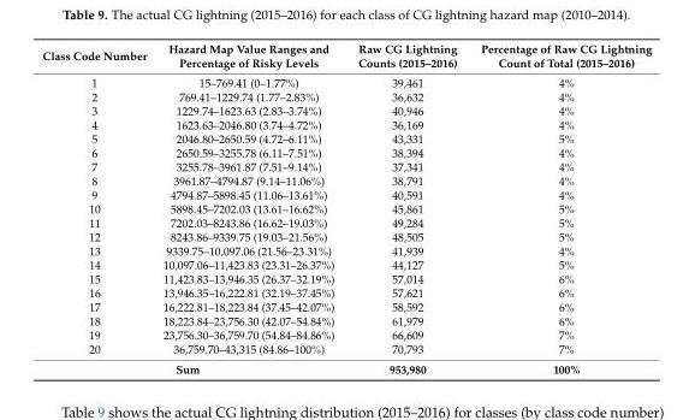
<table><thead><tr><td>Class Code Number</td><td>Hazard Map Value Ranges and Percentage of Risky Levels</td><td>Raw CG Lightning Counts (2015–2016)</td><td>Percentage of Raw CG Lightning Count of Total (2015–2016)</td></tr></thead><tbody><tr><td>1</td><td>15–769.41 (0–1.77%)</td><td>39,461</td><td>4%</td></tr><tr><td>2</td><td>769.41–1229.74 (1.77–2.83%)</td><td>36,632</td><td>4%</td></tr><tr><td>3</td><td>1229.74–1623.63 (2.83–3.74%)</td><td>40,946</td><td>4%</td></tr><tr><td>4</td><td>1623.63–2046.80 (3.74–4.72%)</td><td>36,169</td><td>4%</td></tr><tr><td>5</td><td>2046.80–2650.59 (4.72–6.11%)</td><td>43,331</td><td>5%</td></tr><tr><td>6</td><td>2650.59–3255.78 (6.11–7.51%)</td><td>38,394</td><td>4%</td></tr><tr><td>7</td><td>3255.78–3961.87 (7.51–9.14%)</td><td>37,341</td><td>4%</td></tr><tr><td>8</td><td>3961.87–4794.87 (9.14–11.06%)</td><td>38,791</td><td>4%</td></tr><tr><td>9</td><td>4794.87–5898.45 (11.06–13.61%)</td><td>40,591</td><td>4%</td></tr><tr><td>10</td><td>5898.45–7202.03 (13.61–16.62%)</td><td>45,861</td><td>5%</td></tr><tr><td>11</td><td>7202.03–8243.86 (16.62–19.03%)</td><td>49,284</td><td>5%</td></tr><tr><td>12</td><td>8243.86–9339.75 (19.03–21.56%)</td><td>48,505</td><td>5%</td></tr><tr><td>13</td><td>9339.75–10,097.06 (21.56–23.31%)</td><td>41,939</td><td>4%</td></tr><tr><td>14</td><td>10,097.06–11,423.83 (23.31–26.37%)</td><td>44,127</td><td>5%</td></tr><tr><td>15</td><td>11,423.83–13,946.35 (26.37–32.19%)</td><td>57,014</td><td>6%</td></tr><tr><td>16</td><td>13,946.35–16,222.81 (32.19–37.45%)</td><td>57,621</td><td>6%</td></tr><tr><td>17</td><td>16,222.81–18,223.84 (37.45–42.07%)</td><td>58,592</td><td>6%</td></tr><tr><td>18</td><td>18,223.84–23,756.30 (42.07–54.84%)</td><td>61,979</td><td>6%</td></tr><tr><td>19</td><td>23,756.30–36,759.70 (54.84–84.86%)</td><td>66,609</td><td>7%</td></tr><tr><td>20</td><td>36,759.70–43,315 (84.86–100%)</td><td>70,793</td><td>7%</td></tr><tr><td colspan="2">Sum</td><td>953,980</td><td>100%</td></tr></tbody></table>